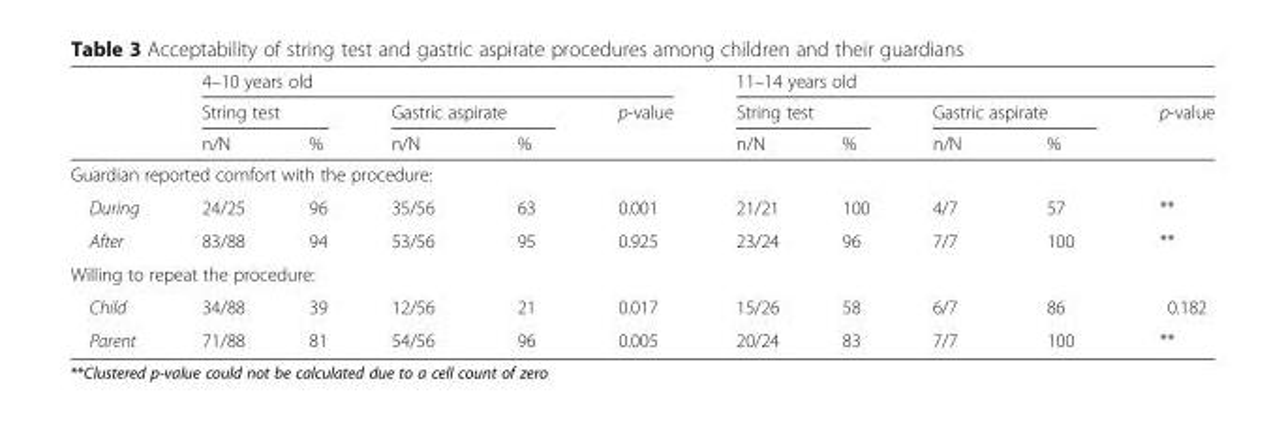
<table><thead><tr><td rowspan="3"></td><td colspan="5">4–10 years old</td><td colspan="5">11–14 years old</td></tr><tr><td colspan="2">String test</td><td colspan="2">Gastric aspirate</td><td rowspan="2">p-value</td><td colspan="2">String test</td><td colspan="2">Gastric aspirate</td><td rowspan="2">p-value</td></tr><tr><td>n/N</td><td>%</td><td>n/N</td><td>%</td><td>n/N</td><td>%</td><td>n/N</td><td>%</td></tr></thead><tbody><tr><td colspan="11">Guardian reported comfort with the procedure:</td></tr><tr><td>During</td><td>24/25</td><td>96</td><td>35/56</td><td>63</td><td>0.001</td><td>21/21</td><td>100</td><td>4/7</td><td>57</td><td>**</td></tr><tr><td>After</td><td>83/88</td><td>94</td><td>53/56</td><td>95</td><td>0.925</td><td>23/24</td><td>96</td><td>7/7</td><td>100</td><td>**</td></tr><tr><td colspan="11">Willing to repeat the procedure:</td></tr><tr><td>Child</td><td>34/88</td><td>39</td><td>12/56</td><td>21</td><td>0.017</td><td>15/26</td><td>58</td><td>6/7</td><td>86</td><td>0.182</td></tr><tr><td>Parent</td><td>71/88</td><td>81</td><td>54/56</td><td>96</td><td>0.005</td><td>20/24</td><td>83</td><td>7/7</td><td>100</td><td>**</td></tr></tbody></table>